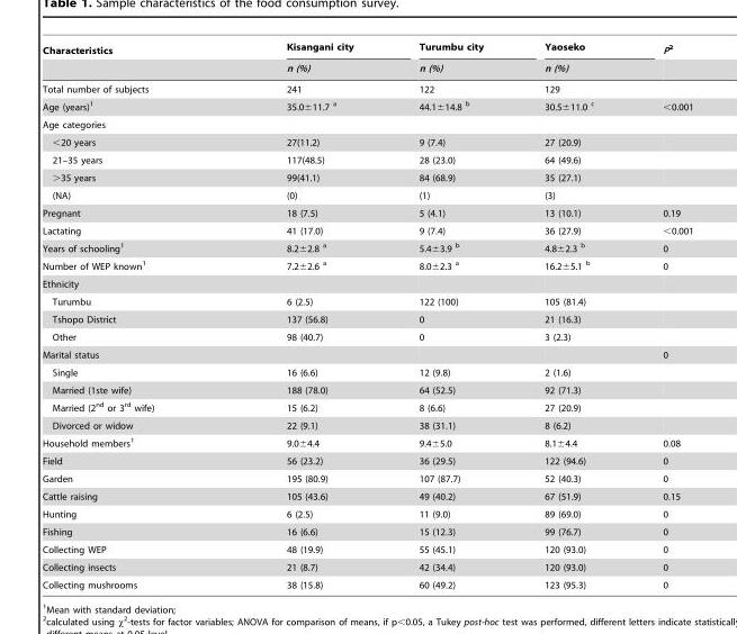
<table><thead><tr><td rowspan="2">Characteristics</td><td rowspan="2">Kisangani city n (%)</td><td rowspan="2">Turumbu city n (%)</td><td rowspan="2">Yaoseko n (%)</td><td rowspan="2">P2</td></tr><tr></tr></thead><tbody><tr><td>Total number of subjects</td><td>241</td><td>122</td><td>129</td><td></td></tr><tr><td>Age (years)<sup>1</sup></td><td>35.0±11.7 <sup>a</sup></td><td>44.1±14.8 <sup>b</sup></td><td>30.5±11.0 <sup>c</sup></td><td>&lt;0.001</td></tr><tr><td colspan="5">Age categories</td></tr><tr><td>&lt;20 years</td><td>27(11.2)</td><td>9 (7.4)</td><td>27 (20.9)</td><td></td></tr><tr><td>21–35 years</td><td>117(48.5)</td><td>28 (23.0)</td><td>64 (49.6)</td><td></td></tr><tr><td>&gt;35 years</td><td>99(41.1)</td><td>84 (68.9)</td><td>35 (27.1)</td><td></td></tr><tr><td>(NA)</td><td>(0)</td><td>(1)</td><td>(3)</td><td></td></tr><tr><td>Pregnant</td><td>18 (7.5)</td><td>5 (4.1)</td><td>13 (10.1)</td><td>0.19</td></tr><tr><td>Lactating</td><td>41 (17.0)</td><td>9 (7.4)</td><td>36 (27.9)</td><td>&lt;0.001</td></tr><tr><td>Years of schooling<sup>1</sup></td><td>8.2±2.8 <sup>a</sup></td><td>5.4±3.9 <sup>b</sup></td><td>4.8±2.3 <sup>b</sup></td><td>0</td></tr><tr><td>Number of WEP known<sup>1</sup></td><td>7.2±2.6 <sup>a</sup></td><td>8.0±2.3 <sup>a</sup></td><td>16.2±5.1 <sup>b</sup></td><td>0</td></tr><tr><td colspan="5">Ethnicity</td></tr><tr><td>Turumbu</td><td>6 (2.5)</td><td>122 (100)</td><td>105 (81.4)</td><td></td></tr><tr><td>Tshopo District</td><td>137 (56.8)</td><td>0</td><td>21 (16.3)</td><td></td></tr><tr><td>Other</td><td>98 (40.7)</td><td>0</td><td>3 (2.3)</td><td></td></tr><tr><td>Marital status</td><td></td><td></td><td></td><td>0</td></tr><tr><td>Single</td><td>16 (6.6)</td><td>12 (9.8)</td><td>2 (1.6)</td><td></td></tr><tr><td>Married (1ste wife)</td><td>188 (78.0)</td><td>64 (52.5)</td><td>92 (71.3)</td><td></td></tr><tr><td>Married (2<sup>nd</sup> or 3<sup>rd</sup> wife)</td><td>15 (6.2)</td><td>8 (6.6)</td><td>27 (20.9)</td><td></td></tr><tr><td>Divorced or widow</td><td>22 (9.1)</td><td>38 (31.1)</td><td>8 (6.2)</td><td></td></tr><tr><td>Household members<sup>1</sup></td><td>9.0±4.4</td><td>9.4±5.0</td><td>8.1±4.4</td><td>0.08</td></tr><tr><td>Field</td><td>56 (23.2)</td><td>36 (29.5)</td><td>122 (94.6)</td><td>0</td></tr><tr><td>Garden</td><td>195 (80.9)</td><td>107 (87.7)</td><td>52 (40.3)</td><td>0</td></tr><tr><td>Cattle raising</td><td>105 (43.6)</td><td>49 (40.2)</td><td>67 (51.9)</td><td>0.15</td></tr><tr><td>Hunting</td><td>6 (2.5)</td><td>11 (9.0)</td><td>89 (69.0)</td><td>0</td></tr><tr><td>Fishing</td><td>16 (6.6)</td><td>15 (12.3)</td><td>99 (76.7)</td><td>0</td></tr><tr><td>Collecting WEP</td><td>48 (19.9)</td><td>55 (45.1)</td><td>120 (93.0)</td><td>0</td></tr><tr><td>Collecting insects</td><td>21 (8.7)</td><td>42 (34.4)</td><td>120 (93.0)</td><td>0</td></tr><tr><td>Collecting mushrooms</td><td>38 (15.8)</td><td>60 (49.2)</td><td>123 (95.3)</td><td>0</td></tr></tbody></table>